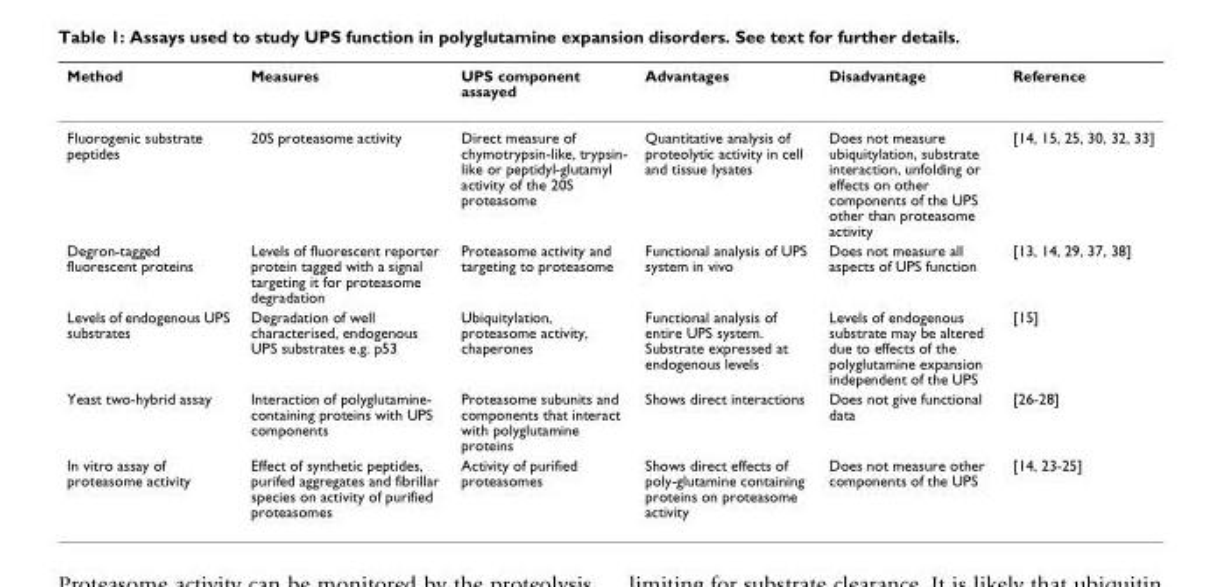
<table><thead><tr><td>Method</td><td>Measures</td><td>UPS component assayed</td><td>Advantages</td><td>Disadvantage</td><td>Reference</td></tr></thead><tbody><tr><td>Fluorogenic substrate peptides</td><td>20S proteasome activity</td><td>Direct measure of chymotrypsin-like, trypsin- like or peptidyl-glutamyl activity of the 20S proteasome</td><td>Quantitative analysis of proteolytic activity in cell and tissue lysates</td><td>Does not measure ubiquitylation, substrate interaction, unfolding or effects on other components of the UPS other than proteasome activity</td><td>[14, 15, 25, 30, 32, 33]</td></tr><tr><td>Degron-tagged fluorescent proteins</td><td>Levels of fluorescent reporter protein tagged with a signal targeting it for proteasome degradation</td><td>Proteasome activity and targeting to proteasome</td><td>Functional analysis of UPS system in vivo</td><td>Does not measure all aspects of UPS function</td><td>[13, 14, 29, 37, 38]</td></tr><tr><td>Levels of endogenous UPS substrates</td><td>Degradation of well characterised, endogenous UPS substrates e.g. p53</td><td>Ubiquitylation, proteasome activity, chaperones</td><td>Functional analysis of entire UPS system. Substrate expressed at endogenous levels</td><td>Levels of endogenous substrate may be altered due to effects of the polyglutamine expansion independent of the UPS</td><td>[15]</td></tr><tr><td>Yeast two-hybrid assay</td><td>Interaction of polyglutamine- containing proteins with UPS components</td><td>Proteasome subunits and components that interact with polyglutamine proteins</td><td>Shows direct interactions</td><td>Does not give functional data</td><td>[26-28]</td></tr><tr><td>In vitro assay of proteasome activity</td><td>Effect of synthetic peptides, purifed aggregates and fibrillar species on activity of purified proteasomes</td><td>Activity of purified proteasomes</td><td>Shows direct effects of poly-glutamine containing proteins on proteasome activity</td><td>Does not measure other components of the UPS</td><td>[14, 23-25]</td></tr></tbody></table>